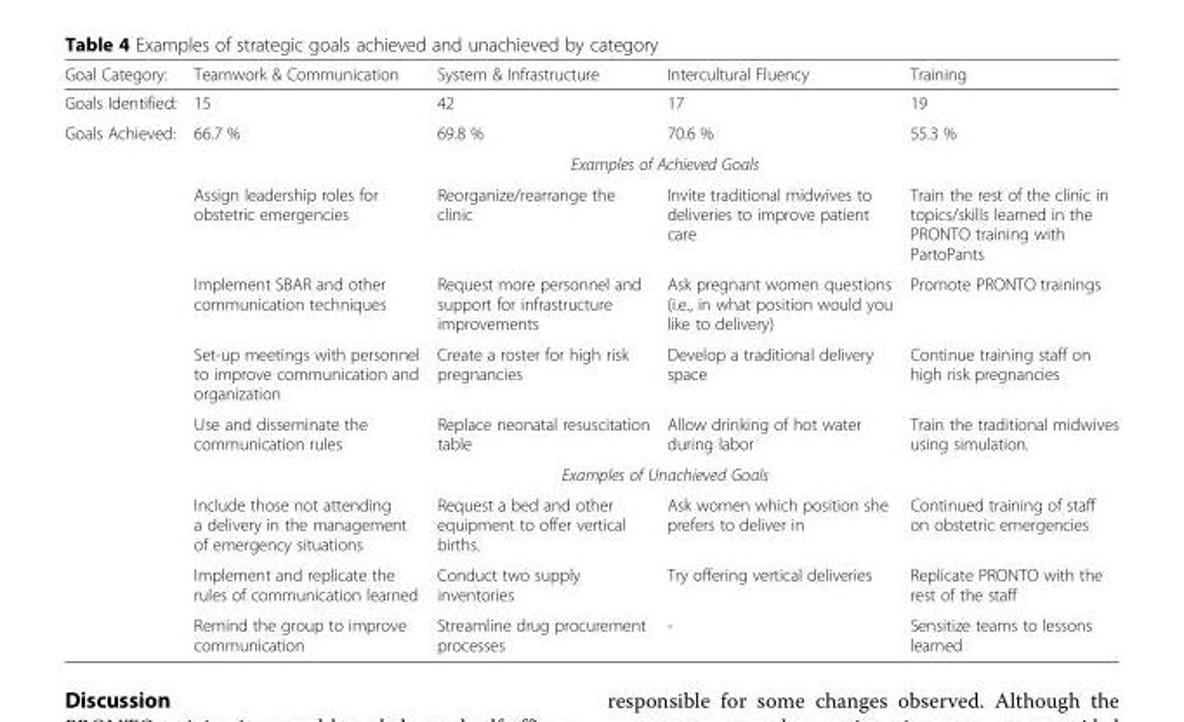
<table><thead><tr><td>Goal Category:</td><td>Teamwork &amp; Communication</td><td>System &amp; Infrastructure</td><td>Intercultural Fluency</td><td>Training</td></tr></thead><tbody><tr><td>Goals Identified:</td><td>15</td><td>42</td><td>17</td><td>19</td></tr><tr><td rowspan="10">Goals Achieved:</td><td>66.7 %</td><td>69.8 %</td><td>70.6 %</td><td>55.3 %</td></tr><tr><td></td><td colspan="2">Examples of Achieved Goals</td><td></td></tr><tr><td>Assign leadership roles for obstetric emergencies</td><td>Reorganize/rearrange the clinic</td><td>Invite traditional midwives to deliveries to improve patient care</td><td>Train the rest of the clinic in topics/skills learned in the PRONTO training with PartoPants</td></tr><tr><td>Implement SBAR and other communication techniques</td><td>Request more personnel and support for infrastructure improvements</td><td>Ask pregnant women questions (i.e., in what position would you like to delivery)</td><td>Promote PRONTO trainings</td></tr><tr><td>Set-up meetings with personnel to improve communication and organization</td><td>Create a roster for high risk pregnancies</td><td>Develop a traditional delivery space</td><td>Continue training staff on high risk pregnancies</td></tr><tr><td>Use and disseminate the communication rules</td><td>Replace neonatal resuscitation table</td><td>Allow drinking of hot water during labor</td><td>Train the traditional midwives using simulation.</td></tr><tr><td></td><td colspan="2">Examples of Unachieved Goals</td><td></td></tr><tr><td>Include those not attending a delivery in the management of emergency situations</td><td>Request a bed and other equipment to offer vertical births.</td><td>Ask women which position she prefers to deliver in</td><td>Continued training of staff on obstetric emergencies</td></tr><tr><td>Implement and replicate the rules of communication learned</td><td>Conduct two supply inventories</td><td>Try offering vertical deliveries</td><td>Replicate PRONTO with the rest of the staff</td></tr><tr><td>Remind the group to improve communication</td><td>Streamline drug procurement processes</td><td>-</td><td>Sensitize teams to lessons learned</td></tr></tbody></table>